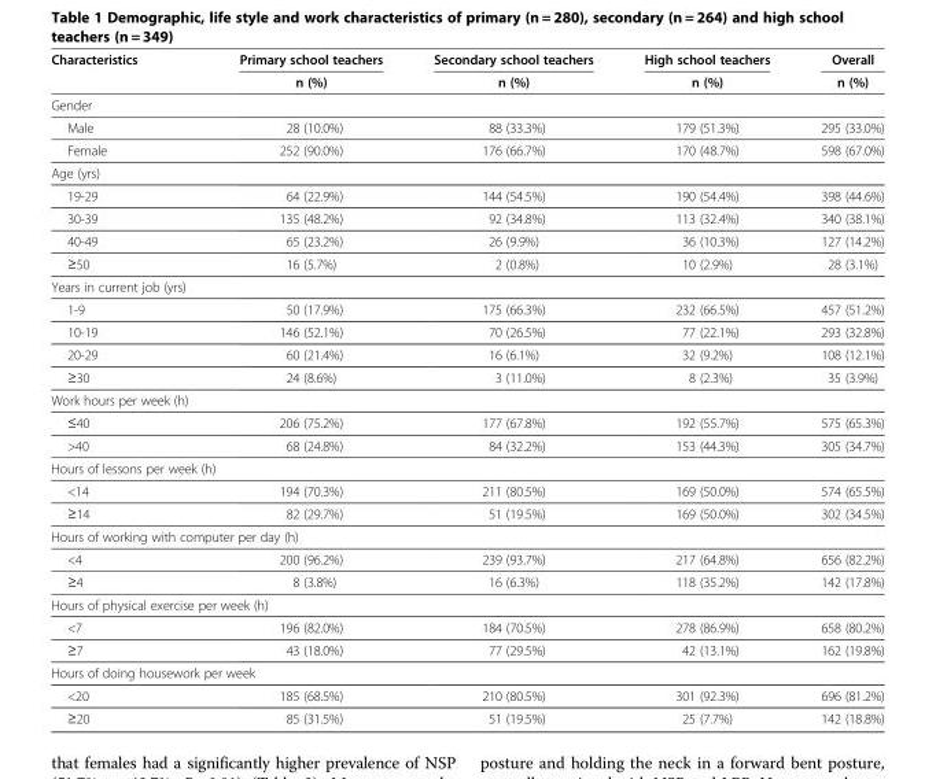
<table><thead><tr><td rowspan="2">Characteristics</td><td rowspan="2">Primary school teachers n (%)</td><td rowspan="2">Secondary school teachers n (%)</td><td rowspan="2">High school teachers n (%)</td><td rowspan="2">Overall n (%)</td></tr><tr></tr></thead><tbody><tr><td colspan="5">Gender</td></tr><tr><td>Male</td><td>28 (10.0%)</td><td>88 (33.3%)</td><td>179 (51.3%)</td><td>295 (33.0%)</td></tr><tr><td>Female</td><td>252 (90.0%)</td><td>176 (66.7%)</td><td>170 (48.7%)</td><td>598 (67.0%)</td></tr><tr><td colspan="5">Age (yrs)</td></tr><tr><td>19-29</td><td>64 (22.9%)</td><td>144 (54.5%)</td><td>190 (54.4%)</td><td>398 (44.6%)</td></tr><tr><td>30-39</td><td>135 (48.2%)</td><td>92 (34.8%)</td><td>113 (32.4%)</td><td>340 (38.1%)</td></tr><tr><td>40-49</td><td>65 (23.2%)</td><td>26 (9.9%)</td><td>36 (10.3%)</td><td>127 (14.2%)</td></tr><tr><td>≥50</td><td>16 (5.7%)</td><td>2 (0.8%)</td><td>10 (2.9%)</td><td>28 (3.1%)</td></tr><tr><td colspan="5">Years in current job (yrs)</td></tr><tr><td>1-9</td><td>50 (17.9%)</td><td>175 (66.3%)</td><td>232 (66.5%)</td><td>457 (51.2%)</td></tr><tr><td>10-19</td><td>146 (52.1%)</td><td>70 (26.5%)</td><td>77 (22.1%)</td><td>293 (32.8%)</td></tr><tr><td>20-29</td><td>60 (21.4%)</td><td>16 (6.1%)</td><td>32 (9.2%)</td><td>108 (12.1%)</td></tr><tr><td>≥30</td><td>24 (8.6%)</td><td>3 (11.0%)</td><td>8 (2.3%)</td><td>35 (3.9%)</td></tr><tr><td colspan="5">Work hours per week (h)</td></tr><tr><td>≤40</td><td>206 (75.2%)</td><td>177 (67.8%)</td><td>192 (55.7%)</td><td>575 (65.3%)</td></tr><tr><td>&gt;40</td><td>68 (24.8%)</td><td>84 (32.2%)</td><td>153 (44.3%)</td><td>305 (34.7%)</td></tr><tr><td colspan="5">Hours of lessons per week (h)</td></tr><tr><td>&lt;14</td><td>194 (70.3%)</td><td>211 (80.5%)</td><td>169 (50.0%)</td><td>574 (65.5%)</td></tr><tr><td>≥14</td><td>82 (29.7%)</td><td>51 (19.5%)</td><td>169 (50.0%)</td><td>302 (34.5%)</td></tr><tr><td colspan="5">Hours of working with computer per day (h)</td></tr><tr><td>&lt;4</td><td>200 (96.2%)</td><td>239 (93.7%)</td><td>217 (64.8%)</td><td>656 (82.2%)</td></tr><tr><td>≥4</td><td>8 (3.8%)</td><td>16 (6.3%)</td><td>118 (35.2%)</td><td>142 (17.8%)</td></tr><tr><td colspan="5">Hours of physical exercise per week (h)</td></tr><tr><td>&lt;7</td><td>196 (82.0%)</td><td>184 (70.5%)</td><td>278 (86.9%)</td><td>658 (80.2%)</td></tr><tr><td>≥7</td><td>43 (18.0%)</td><td>77 (29.5%)</td><td>42 (13.1%)</td><td>162 (19.8%)</td></tr><tr><td colspan="5">Hours of doing housework per week</td></tr><tr><td>&lt;20</td><td>185 (68.5%)</td><td>210 (80.5%)</td><td>301 (92.3%)</td><td>696 (81.2%)</td></tr><tr><td>≥20</td><td>85 (31.5%)</td><td>51 (19.5%)</td><td>25 (7.7%)</td><td>142 (18.8%)</td></tr></tbody></table>